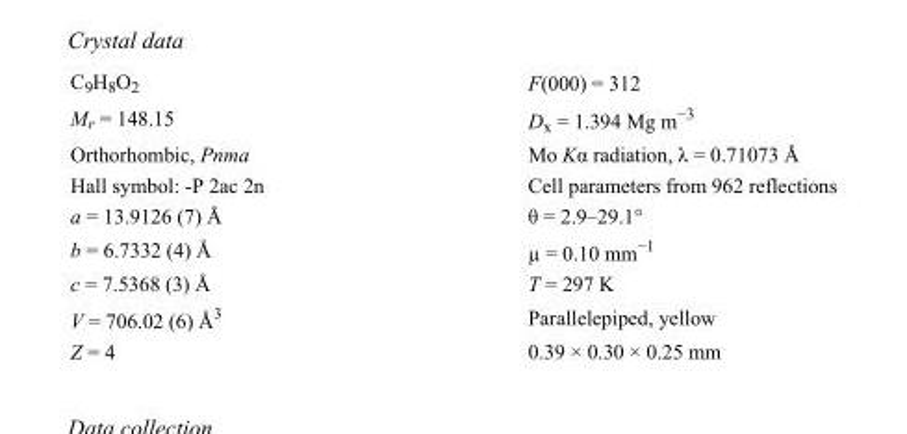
<table><tbody><tr><td>C<sub>9</sub>H<sub>8</sub>O<sub>2</sub></td><td>F(000) = 312</td></tr><tr><td>M<sub>r</sub> = 148.15</td><td>D<sub>x</sub> = 1.394 Mg m<sup>−3</sup></td></tr><tr><td>Orthorhombic, Pnma</td><td>Mo Kα radiation, λ = 0.71073 Å</td></tr><tr><td>Hall symbol: -P 2ac 2n</td><td>Cell parameters from 962 reflections</td></tr><tr><td>a = 13.9126 (7) Å</td><td>θ = 2.9–29.1°</td></tr><tr><td>b = 6.7332 (4) Å</td><td>µ = 0.10 mm<sup>−1</sup></td></tr><tr><td>c = 7.5368 (3) Å</td><td>T = 297 K</td></tr><tr><td>V = 706.02 (6) Å<sup>3</sup></td><td>Parallelepiped, yellow</td></tr><tr><td>Z = 4</td><td>0.39 × 0.30 × 0.25 mm</td></tr></tbody></table>